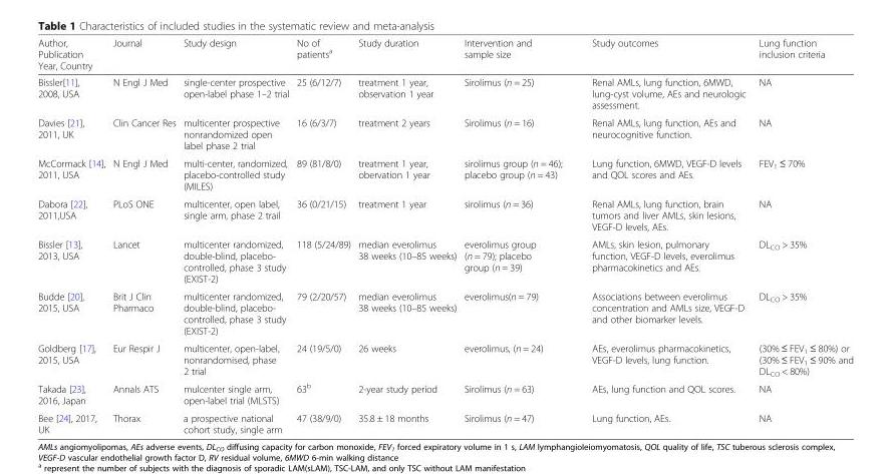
<table><thead><tr><td>Author, Publication Year, Country</td><td>Journal</td><td>Study design</td><td>No of patients<sup>a</sup></td><td>Study duration</td><td>Intervention and sample size</td><td>Study outcomes</td><td>Lung function inclusion criteria</td></tr></thead><tbody><tr><td>Bissler[11], 2008, USA</td><td>N Engl J Med</td><td>single-center prospective open-label phase 1–2 trial</td><td>25 (6/12/7)</td><td>treatment 1 year, observation 1 year</td><td>Sirolimus (n = 25)</td><td>Renal AMLs, lung function, 6MWD, lung-cyst volume, AEs and neurologic assessment.</td><td>NA</td></tr><tr><td>Davies [21], 2011, UK</td><td>Clin Cancer Res</td><td>multicenter prospective nonrandomized open label phase 2 trial</td><td>16 (6/3/7)</td><td>treatment 2 years</td><td>Sirolimus (n = 16)</td><td>Renal AMLs, lung function, AEs and neurocognitive function.</td><td>NA</td></tr><tr><td>McCormack [14], 2011, USA</td><td>N Engl J Med</td><td>multi-center, randomized, placebo-controlled study (MILES)</td><td>89 (81/8/0)</td><td>treatment 1 year, obervation 1 year</td><td>sirolimus group (n = 46); placebo group (n = 43)</td><td>Lung function, 6MWD, VEGF-D levels and QOL scores and AEs.</td><td>FEV<sub>1</sub> ≤ 70%</td></tr><tr><td>Dabora [22], 2011,USA</td><td>PLoS ONE</td><td>multicenter, open label, single arm, phase 2 trail</td><td>36 (0/21/15)</td><td>treatment 1 year</td><td>sirolimus (n = 36)</td><td>Renal AMLs, lung function, brain tumors and liver AMLs, skin lesions, VEGF-D levels, AEs.</td><td>NA</td></tr><tr><td>Bissler [13], 2013, USA</td><td>Lancet</td><td>multicenter randomized, double-blind, placebo- controlled, phase 3 study (EXIST-2)</td><td>118 (5/24/89)</td><td>median everolimus 38 weeks (10–85 weeks)</td><td>everolimus group (n = 79); placebo group (n = 39)</td><td>AMLs, skin lesion, pulmonary function, VEGF-D levels, everolimus pharmacokinetics and AEs.</td><td>DL<sub>CO</sub> &gt; 35%</td></tr><tr><td>Budde [20], 2015, USA</td><td>Brit J Clin Pharmaco</td><td>multicenter randomized, double-blind, placebo- controlled, phase 3 study (EXIST-2)</td><td>79 (2/20/57)</td><td>median everolimus 38 weeks (10–85 weeks)</td><td>everolimus(n = 79)</td><td>Associations between everolimus concentration and AMLs size, VEGF-D and other biomarker levels.</td><td>DL<sub>CO</sub> &gt; 35%</td></tr><tr><td>Goldberg [17], 2015, USA</td><td>Eur Respir J</td><td>multicenter, open-label, nonrandomised, phase 2 trial</td><td>24 (19/5/0)</td><td>26 weeks</td><td>everolimus, (n = 24)</td><td>AEs, everolimus pharmacokinetics, VEGF-D levels, lung function.</td><td>(30% ≤ FEV<sub>1</sub> ≤ 80%) or (30% ≤ FEV<sub>1</sub> ≤ 90% and DL<sub>CO</sub> &lt; 80%)</td></tr><tr><td>Takada [23], 2016, Japan</td><td>Annals ATS</td><td>mulcenter single arm, open-label trial (MLSTS)</td><td>63<sup>b</sup></td><td>2-year study period</td><td>Sirolimus (n = 63)</td><td>AEs, lung function and QOL scores.</td><td>NA</td></tr><tr><td>Bee [24], 2017, UK</td><td>Thorax</td><td>a prospective national cohort study, single arm</td><td>47 (38/9/0)</td><td>35.8 ± 18 months</td><td>Sirolimus (n = 47)</td><td>Lung function, AEs.</td><td>NA</td></tr></tbody></table>